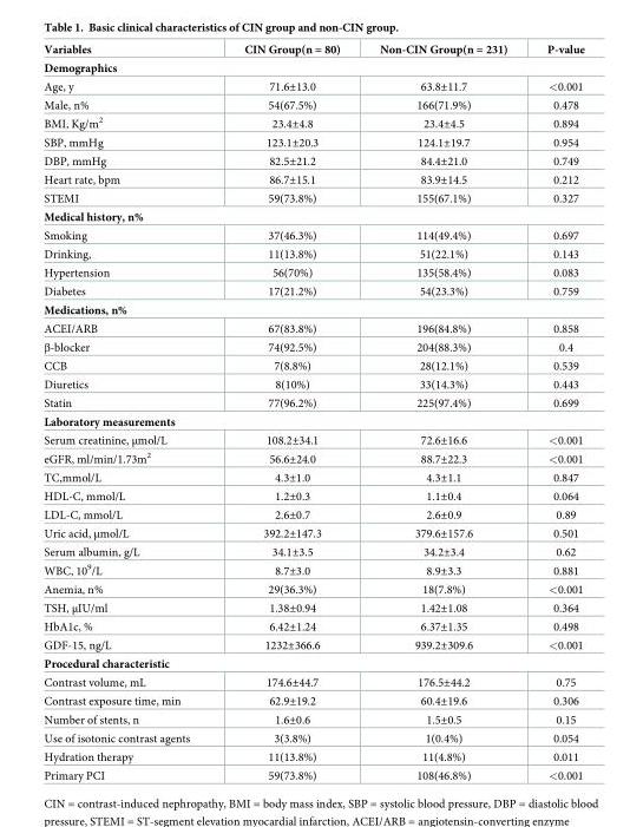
<table><thead><tr><td>Variables</td><td>CIN Group(n = 80)</td><td>Non-CIN Group(n = 231)</td><td>P-value</td></tr></thead><tbody><tr><td colspan="4">Demographics</td></tr><tr><td>Age, y</td><td>71.6±13.0</td><td>63.8±11.7</td><td>&lt;0.001</td></tr><tr><td>Male, n%</td><td>54(67.5%)</td><td>166(71.9%)</td><td>0.478</td></tr><tr><td>BMI, Kg/m<sup>2</sup></td><td>23.4±4.8</td><td>23.4±4.5</td><td>0.894</td></tr><tr><td>SBP, mmHg</td><td>123.1±20.3</td><td>124.1±19.7</td><td>0.954</td></tr><tr><td>DBP, mmHg</td><td>82.5±21.2</td><td>84.4±21.0</td><td>0.749</td></tr><tr><td>Heart rate, bpm</td><td>86.7±15.1</td><td>83.9±14.5</td><td>0.212</td></tr><tr><td>STEMI</td><td>59(73.8%)</td><td>155(67.1%)</td><td>0.327</td></tr><tr><td colspan="4">Medical history, n%</td></tr><tr><td>Smoking</td><td>37(46.3%)</td><td>114(49.4%)</td><td>0.697</td></tr><tr><td>Drinking,</td><td>11(13.8%)</td><td>51(22.1%)</td><td>0.143</td></tr><tr><td>Hypertension</td><td>56(70%)</td><td>135(58.4%)</td><td>0.083</td></tr><tr><td>Diabetes</td><td>17(21.2%)</td><td>54(23.3%)</td><td>0.759</td></tr><tr><td colspan="4">Medications, n%</td></tr><tr><td>ACEI/ARB</td><td>67(83.8%)</td><td>196(84.8%)</td><td>0.858</td></tr><tr><td>β-blocker</td><td>74(92.5%)</td><td>204(88.3%)</td><td>0.4</td></tr><tr><td>CCB</td><td>7(8.8%)</td><td>28(12.1%)</td><td>0.539</td></tr><tr><td>Diuretics</td><td>8(10%)</td><td>33(14.3%)</td><td>0.443</td></tr><tr><td>Statin</td><td>77(96.2%)</td><td>225(97.4%)</td><td>0.699</td></tr><tr><td colspan="4">Laboratory measurements</td></tr><tr><td>Serum creatinine, μmol/L</td><td>108.2±34.1</td><td>72.6±16.6</td><td>&lt;0.001</td></tr><tr><td>eGFR, ml/min/1.73m<sup>2</sup></td><td>56.6±24.0</td><td>88.7±22.3</td><td>&lt;0.001</td></tr><tr><td>TC,mmol/L</td><td>4.3±1.0</td><td>4.3±1.1</td><td>0.847</td></tr><tr><td>HDL-C, mmol/L</td><td>1.2±0.3</td><td>1.1±0.4</td><td>0.064</td></tr><tr><td>LDL-C, mmol/L</td><td>2.6±0.7</td><td>2.6±0.9</td><td>0.89</td></tr><tr><td>Uric acid, μmol/L</td><td>392.2±147.3</td><td>379.6±157.6</td><td>0.501</td></tr><tr><td>Serum albumin, g/L</td><td>34.1±3.5</td><td>34.2±3.4</td><td>0.62</td></tr><tr><td>WBC, 10<sup>9</sup>/L</td><td>8.7±3.0</td><td>8.9±3.3</td><td>0.881</td></tr><tr><td>Anemia, n%</td><td>29(36.3%)</td><td>18(7.8%)</td><td>&lt;0.001</td></tr><tr><td>TSH, μIU/ml</td><td>1.38±0.94</td><td>1.42±1.08</td><td>0.364</td></tr><tr><td>HbA1c, %</td><td>6.42±1.24</td><td>6.37±1.35</td><td>0.498</td></tr><tr><td>GDF-15, ng/L</td><td>1232±366.6</td><td>939.2±309.6</td><td>&lt;0.001</td></tr><tr><td colspan="4">Procedural characteristic</td></tr><tr><td>Contrast volume, mL</td><td>174.6±44.7</td><td>176.5±44.2</td><td>0.75</td></tr><tr><td>Contrast exposure time, min</td><td>62.9±19.2</td><td>60.4±19.6</td><td>0.306</td></tr><tr><td>Number of stents, n</td><td>1.6±0.6</td><td>1.5±0.5</td><td>0.15</td></tr><tr><td>Use of isotonic contrast agents</td><td>3(3.8%)</td><td>1(0.4%)</td><td>0.054</td></tr><tr><td>Hydration therapy</td><td>11(13.8%)</td><td>11(4.8%)</td><td>0.011</td></tr><tr><td>Primary PCI</td><td>59(73.8%)</td><td>108(46.8%)</td><td>&lt;0.001</td></tr></tbody></table>